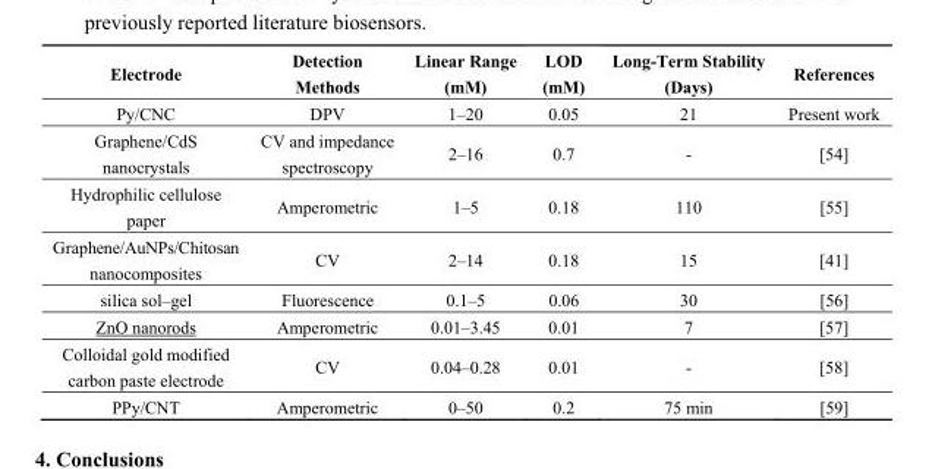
<table><thead><tr><td>Electrode</td><td>Detection Methods</td><td>Linear Range (mM)</td><td>LOD (mM)</td><td>Long-Term Stability (Days)</td><td>References</td></tr></thead><tbody><tr><td>Py/CNC</td><td>DPV</td><td>1–20</td><td>0.05</td><td>21</td><td>Present work</td></tr><tr><td>Graphene/CdS nanocrystals</td><td>CV and impedance spectroscopy</td><td>2–16</td><td>0.7</td><td>-</td><td>[54]</td></tr><tr><td>Hydrophilic cellulose paper</td><td>Amperometric</td><td>1–5</td><td>0.18</td><td>110</td><td>[55]</td></tr><tr><td>Graphene/AuNPs/Chitosan nanocomposites</td><td>CV</td><td>2–14</td><td>0.18</td><td>15</td><td>[41]</td></tr><tr><td>silica sol–gel</td><td>Fluorescence</td><td>0.1–5</td><td>0.06</td><td>30</td><td>[56]</td></tr><tr><td>ZnO nanorods</td><td>Amperometric</td><td>0.01–3.45</td><td>0.01</td><td>7</td><td>[57]</td></tr><tr><td>Colloidal gold modified carbon paste electrode</td><td>CV</td><td>0.04–0.28</td><td>0.01</td><td>-</td><td>[58]</td></tr><tr><td>PPy/CNT</td><td>Amperometric</td><td>0–50</td><td>0.2</td><td>75 min</td><td>[59]</td></tr></tbody></table>